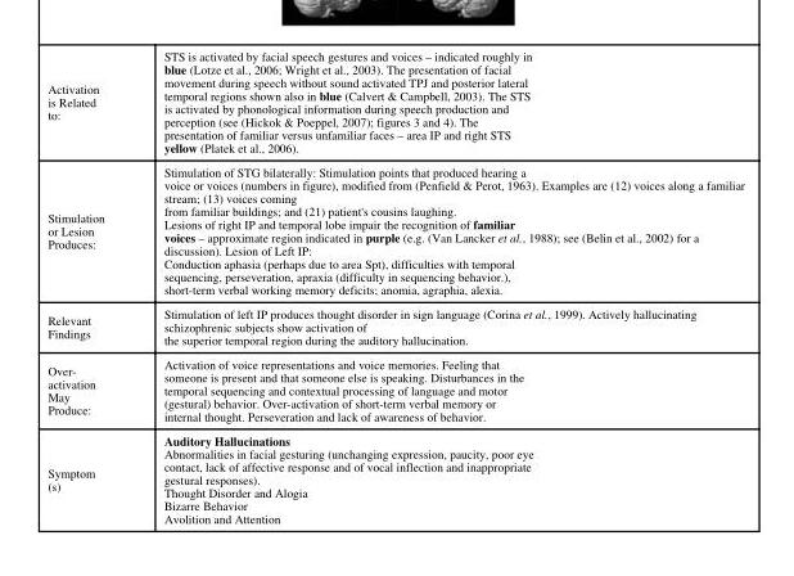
<table><tbody><tr><td>Activation is Related to:</td><td>STS is activated by facial speech gestures and voices – indicated roughly in blue (Lotze et al., 2006; Wright et al., 2003). The presentation of facial movement during speech without sound activated TPJ and posterior lateral temporal regions shown also in blue (Calvert &amp; Campbell, 2003). The STS is activated by phonological information during speech production and perception (see (Hickok &amp; Poeppel, 2007); figures 3 and 4). The presentation of familiar versus unfamiliar faces – area IP and right STS yellow (Platek et al., 2006).</td></tr><tr><td>Stimulation or Lesion Produces:</td><td>Stimulation of STG bilaterally: Stimulation points that produced hearing a voice or voices (numbers in figure), modified from (Penfield &amp; Perot, 1963). Examples are (12) voices along a familiar stream; (13) voices coming from familiar buildings; and (21) patient&#x27;s cousins laughing. Lesions of right IP and temporal lobe impair the recognition of familiar voices – approximate region indicated in purple (e.g. (Van Lancker et al., 1988); see (Belin et al., 2002) for a discussion). Lesion of Left IP: Conduction aphasia (perhaps due to area Spt), difficulties with temporal sequencing, perseveration, apraxia (difficulty in sequencing behavior.), short-term verbal working memory deficits; anomia, agraphia, alexia.</td></tr><tr><td>Relevant Findings</td><td>Stimulation of left IP produces thought disorder in sign language (Corina et al., 1999). Actively hallucinating schizophrenic subjects show activation of the superior temporal region during the auditory hallucination.</td></tr><tr><td>Over- activation May Produce:</td><td>Activation of voice representations and voice memories. Feeling that someone is present and that someone else is speaking. Disturbances in the temporal sequencing and contextual processing of language and motor (gestural) behavior. Over-activation of short-term verbal memory or internal thought. Perseveration and lack of awareness of behavior.</td></tr><tr><td>Symptom (s)</td><td>Auditory Hallucinations Abnormalities in facial gesturing (unchanging expression, paucity, poor eye contact, lack of affective response and of vocal inflection and inappropriate gestural responses). Thought Disorder and Alogia Bizarre Behavior Avolition and Attention</td></tr></tbody></table>